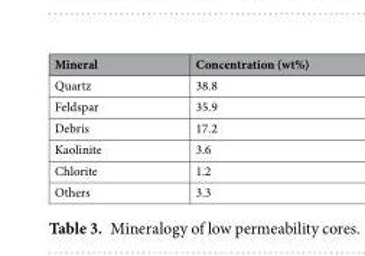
<table><thead><tr><td>Mineral</td><td>Concentration (wt%)</td></tr></thead><tbody><tr><td>Quartz</td><td>38.8</td></tr><tr><td>Feldspar</td><td>35.9</td></tr><tr><td>Debris</td><td>17.2</td></tr><tr><td>Kaolinite</td><td>3.6</td></tr><tr><td>Chlorite</td><td>1.2</td></tr><tr><td>Others</td><td>3.3</td></tr></tbody></table>